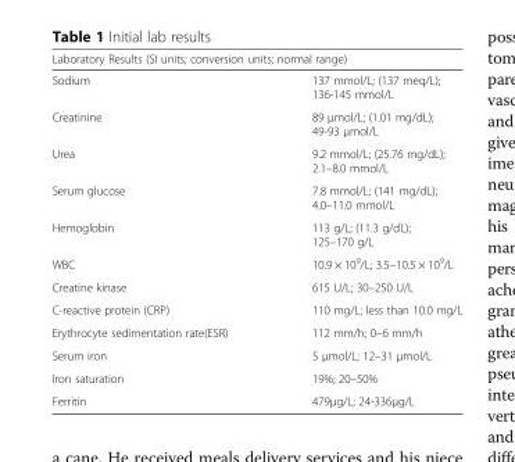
<table><thead><tr><td colspan="2">Laboratory Results (SI units; conversion units; normal range)</td></tr><tr><td>Sodium</td><td>137 mmol/L; (137 meq/L); 136-145 mmol/L</td></tr></thead><tbody><tr><td>Creatinine</td><td>89 μmol/L; (1.01 mg/dL); 49-93 μmol/L</td></tr><tr><td>Urea</td><td>9.2 mmol/L; (25.76 mg/dL); 2.1–8.0 mmol/L</td></tr><tr><td>Serum glucose</td><td>7.8 mmol/L; (141 mg/dL); 4.0–11.0 mmol/L</td></tr><tr><td>Hemoglobin</td><td>113 g/L; (11.3 g/dL); 125–170 g/L</td></tr><tr><td>WBC</td><td>10.9 × 10<sup>9</sup>/L; 3.5–10.5 × 10<sup>9</sup>/L</td></tr><tr><td>Creatine kinase</td><td>615 U/L; 30–250 U/L</td></tr><tr><td>C-reactive protein (CRP)</td><td>110 mg/L; less than 10.0 mg/L</td></tr><tr><td>Erythrocyte sedimentation rate(ESR)</td><td>112 mm/h; 0–6 mm/h</td></tr><tr><td>Serum iron</td><td>5 μmol/L; 12–31 μmol/L</td></tr><tr><td>Iron saturation</td><td>19%; 20–50%</td></tr><tr><td>Ferritin</td><td>479μg/L; 24-336μg/L</td></tr></tbody></table>